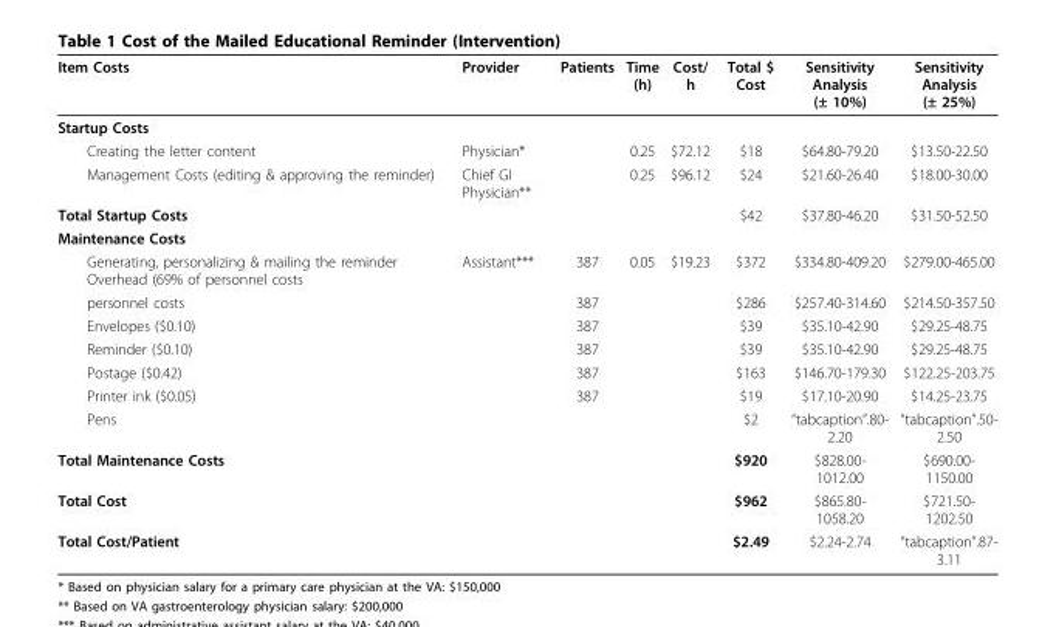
<table><thead><tr><td>Item Costs</td><td>Provider</td><td>Patients</td><td>Time (h)</td><td>Cost/ h</td><td>Total $ Cost</td><td>Sensitivity Analysis (± 10%)</td><td>Sensitivity Analysis (± 25%)</td></tr></thead><tbody><tr><td colspan="8">Startup Costs</td></tr><tr><td>Creating the letter content</td><td>Physician*</td><td></td><td>0.25</td><td>$72.12</td><td>$18</td><td>$64.80-79.20</td><td>$13.50-22.50</td></tr><tr><td>Management Costs (editing &amp; approving the reminder)</td><td>Chief GI Physician**</td><td></td><td>0.25</td><td>$96.12</td><td>$24</td><td>$21.60-26.40</td><td>$18.00-30.00</td></tr><tr><td>Total Startup Costs</td><td></td><td></td><td></td><td></td><td>$42</td><td>$37.80-46.20</td><td>$31.50-52.50</td></tr><tr><td colspan="8">Maintenance Costs</td></tr><tr><td>Generating, personalizing &amp; mailing the reminder Overhead (69% of personnel costs</td><td>Assistant***</td><td>387</td><td>0.05</td><td>$19.23</td><td>$372</td><td>$334.80-409.20</td><td>$279.00-465.00</td></tr><tr><td>personnel costs</td><td></td><td>387</td><td></td><td></td><td>$286</td><td>$257.40-314.60</td><td>$214.50-357.50</td></tr><tr><td>Envelopes ($0.10)</td><td></td><td>387</td><td></td><td></td><td>$39</td><td>$35.10-42.90</td><td>$29.25-48.75</td></tr><tr><td>Reminder ($0.10)</td><td></td><td>387</td><td></td><td></td><td>$39</td><td>$35.10-42.90</td><td>$29.25-48.75</td></tr><tr><td>Postage ($0.42)</td><td></td><td>387</td><td></td><td></td><td>$163</td><td>$146.70-179.30</td><td>$122.25-203.75</td></tr><tr><td>Printer ink ($0.05)</td><td></td><td>387</td><td></td><td></td><td>$19</td><td>$17.10-20.90</td><td>$14.25-23.75</td></tr><tr><td>Pens</td><td></td><td></td><td></td><td></td><td>$2</td><td>“tabcaption”.80- 2.20</td><td>“tabcaption”.50- 2.50</td></tr><tr><td>Total Maintenance Costs</td><td></td><td></td><td></td><td></td><td>$920</td><td>$828.00- 1012.00</td><td>$690.00- 1150.00</td></tr><tr><td>Total Cost</td><td></td><td></td><td></td><td></td><td>$962</td><td>$865.80- 1058.20</td><td>$721.50- 1202.50</td></tr><tr><td>Total Cost/Patient</td><td></td><td></td><td></td><td></td><td>$2.49</td><td>$2.24-2.74</td><td>“tabcaption”.87- 3.11</td></tr></tbody></table>